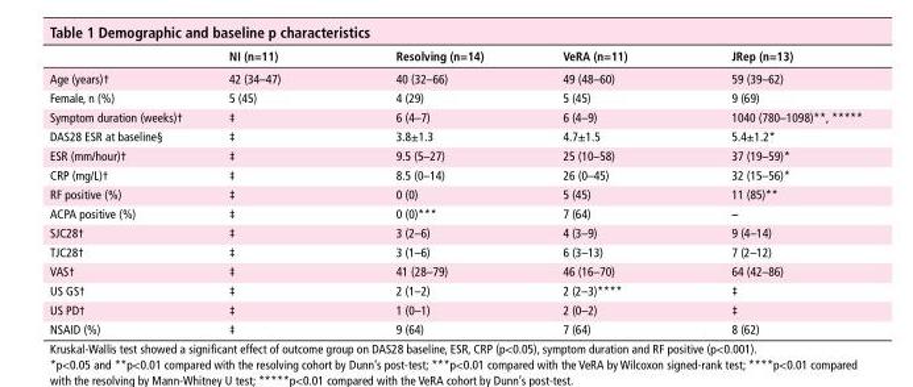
<table><thead><tr><td></td><td>nI (n=11)</td><td>resolving (n=14)</td><td>VerA (n=11)</td><td>Jrep (n=13)</td></tr></thead><tbody><tr><td>Age (years)†</td><td>42 (34–47)</td><td>40 (32–66)</td><td>49 (48–60)</td><td>59 (39–62)</td></tr><tr><td>Female, n (%)</td><td>5 (45)</td><td>4 (29)</td><td>5 (45)</td><td>9 (69)</td></tr><tr><td>Symptom duration (weeks)†</td><td>‡</td><td>6 (4–7)</td><td>6 (4–9)</td><td>1040 (780–1098)**, *****</td></tr><tr><td>DAS28 ESR at baseline§</td><td>‡</td><td>3.8±1.3</td><td>4.7±1.5</td><td>5.4±1.2*</td></tr><tr><td>ESR (mm/hour)†</td><td>‡</td><td>9.5 (5–27)</td><td>25 (10–58)</td><td>37 (19–59)*</td></tr><tr><td>CRP (mg/L)†</td><td>‡</td><td>8.5 (0–14)</td><td>26 (0–45)</td><td>32 (15–56)*</td></tr><tr><td>RF positive (%)</td><td>‡</td><td>0 (0)</td><td>5 (45)</td><td>11 (85)**</td></tr><tr><td>ACPA positive (%)</td><td>‡</td><td>0 (0)***</td><td>7 (64)</td><td>–</td></tr><tr><td>SJC28†</td><td>‡</td><td>3 (2–6)</td><td>4 (3–9)</td><td>9 (4–14)</td></tr><tr><td>TJC28†</td><td>‡</td><td>3 (1–6)</td><td>6 (3–13)</td><td>7 (2–12)</td></tr><tr><td>VAS†</td><td>‡</td><td>41 (28–79)</td><td>46 (16–70)</td><td>64 (42–86)</td></tr><tr><td>US GS†</td><td>‡</td><td>2 (1–2)</td><td>2 (2–3)****</td><td>‡</td></tr><tr><td>US PD†</td><td>‡</td><td>1 (0–1)</td><td>2 (0–2)</td><td>‡</td></tr><tr><td>NSAID (%)</td><td>‡</td><td>9 (64)</td><td>7 (64)</td><td>8 (62)</td></tr></tbody></table>